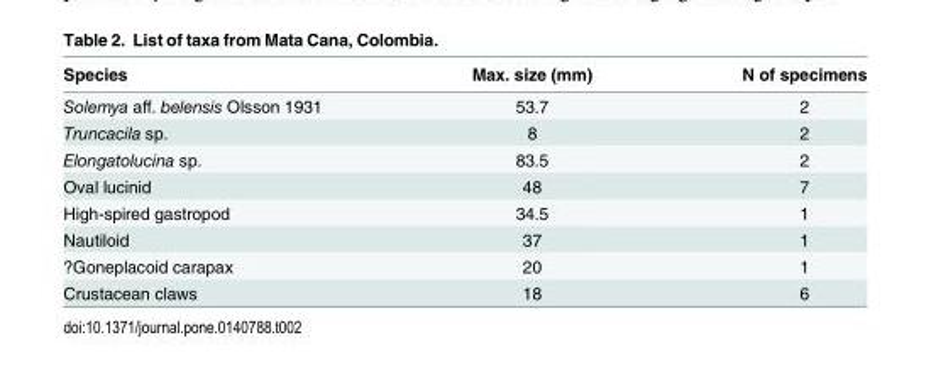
<table><thead><tr><td>Species</td><td>Max. size (mm)</td><td>N of specimens</td></tr></thead><tbody><tr><td>Solemya aff. belensis Olsson 1931</td><td>53.7</td><td>2</td></tr><tr><td>Truncacila sp.</td><td>8</td><td>2</td></tr><tr><td>Elongatolucina sp.</td><td>83.5</td><td>2</td></tr><tr><td>Oval lucinid</td><td>48</td><td>7</td></tr><tr><td>High-spired gastropod</td><td>34.5</td><td>1</td></tr><tr><td>Nautiloid</td><td>37</td><td>1</td></tr><tr><td>?Goneplacoid carapax</td><td>20</td><td>1</td></tr><tr><td>Crustacean claws</td><td>18</td><td>6</td></tr></tbody></table>